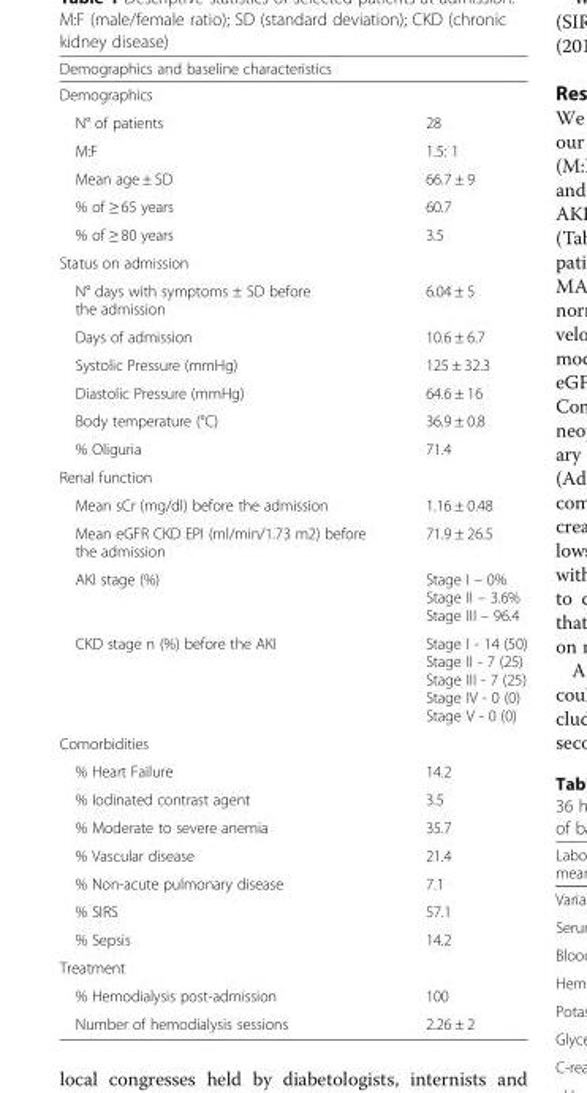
<table><thead><tr><td rowspan="2" colspan="2">Demographics and baseline characteristics Demographics</td></tr><tr></tr><tr><td>N° of patients</td><td>28</td></tr></thead><tbody><tr><td>M:F</td><td>1.5: 1</td></tr><tr><td>Mean age ± SD</td><td>66.7 ± 9</td></tr><tr><td>% of ≥ 65 years</td><td>60.7</td></tr><tr><td>% of ≥ 80 years</td><td>3.5</td></tr><tr><td colspan="2">Status on admission</td></tr><tr><td>N° days with symptoms ± SD before the admission</td><td>6.04 ± 5</td></tr><tr><td>Days of admission</td><td>10.6 ± 6.7</td></tr><tr><td>Systolic Pressure (mmHg)</td><td>125 ± 32.3</td></tr><tr><td>Diastolic Pressure (mmHg)</td><td>64.6 ± 16</td></tr><tr><td>Body temperature (°C)</td><td>36.9 ± 0.8</td></tr><tr><td>% Oliguria</td><td>71.4</td></tr><tr><td colspan="2">Renal function</td></tr><tr><td>Mean sCr (mg/dl) before the admission</td><td>1.16 ± 0.48</td></tr><tr><td>Mean eGFR CKD EPI (ml/min/1.73 m2) before the admission</td><td>71.9 ± 26.5</td></tr><tr><td>AKI stage (%)</td><td>Stage I – 0% Stage II – 3.6% Stage III – 96.4</td></tr><tr><td>CKD stage n (%) before the AKI</td><td>Stage I - 14 (50) Stage II - 7 (25) Stage III - 7 (25) Stage IV - 0 (0) Stage V - 0 (0)</td></tr><tr><td colspan="2">Comorbidities</td></tr><tr><td>% Heart Failure</td><td>14.2</td></tr><tr><td>% Iodinated contrast agent</td><td>3.5</td></tr><tr><td>% Moderate to severe anemia</td><td>35.7</td></tr><tr><td>% Vascular disease</td><td>21.4</td></tr><tr><td>% Non-acute pulmonary disease</td><td>7.1</td></tr><tr><td>% SIRS</td><td>57.1</td></tr><tr><td>% Sepsis</td><td>14.2</td></tr><tr><td colspan="2">Treatment</td></tr><tr><td>% Hemodialysis post-admission</td><td>100</td></tr><tr><td>Number of hemodialysis sessions</td><td>2.26 ± 2</td></tr></tbody></table>